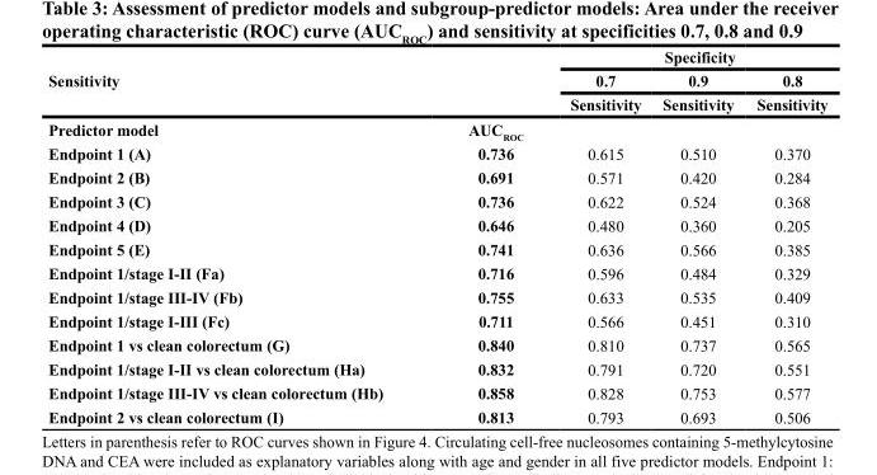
<table><thead><tr><td rowspan="3">Sensitivity</td><td rowspan="3"></td><td colspan="3">Specificity</td></tr><tr><td rowspan="2">0.7 Sensitivity</td><td rowspan="2">0.9 Sensitivity</td><td rowspan="2">0.8 Sensitivity</td></tr><tr></tr></thead><tbody><tr><td>Predictor model</td><td>AUC<sub>ROC</sub></td><td></td><td></td><td></td></tr><tr><td>Endpoint 1 (A)</td><td>0.736</td><td>0.615</td><td>0.510</td><td>0.370</td></tr><tr><td>Endpoint 2 (B)</td><td>0.691</td><td>0.571</td><td>0.420</td><td>0.284</td></tr><tr><td>Endpoint 3 (C)</td><td>0.736</td><td>0.622</td><td>0.524</td><td>0.368</td></tr><tr><td>Endpoint 4 (D)</td><td>0.646</td><td>0.480</td><td>0.360</td><td>0.205</td></tr><tr><td>Endpoint 5 (E)</td><td>0.741</td><td>0.636</td><td>0.566</td><td>0.385</td></tr><tr><td>Endpoint 1/stage I-II (Fa)</td><td>0.716</td><td>0.596</td><td>0.484</td><td>0.329</td></tr><tr><td>Endpoint 1/stage III-IV (Fb)</td><td>0.755</td><td>0.633</td><td>0.535</td><td>0.409</td></tr><tr><td>Endpoint 1/stage I-III (Fc)</td><td>0.711</td><td>0.566</td><td>0.451</td><td>0.310</td></tr><tr><td>Endpoint 1 vs clean colorectum (G)</td><td>0.840</td><td>0.810</td><td>0.737</td><td>0.565</td></tr><tr><td>Endpoint 1/stage I-II vs clean colorectum (Ha)</td><td>0.832</td><td>0.791</td><td>0.720</td><td>0.551</td></tr><tr><td>Endpoint 1/stage III-IV vs clean colorectum (Hb)</td><td>0.858</td><td>0.828</td><td>0.753</td><td>0.577</td></tr><tr><td>Endpoint 2 vs clean colorectum (I)</td><td>0.813</td><td>0.793</td><td>0.693</td><td>0.506</td></tr></tbody></table>